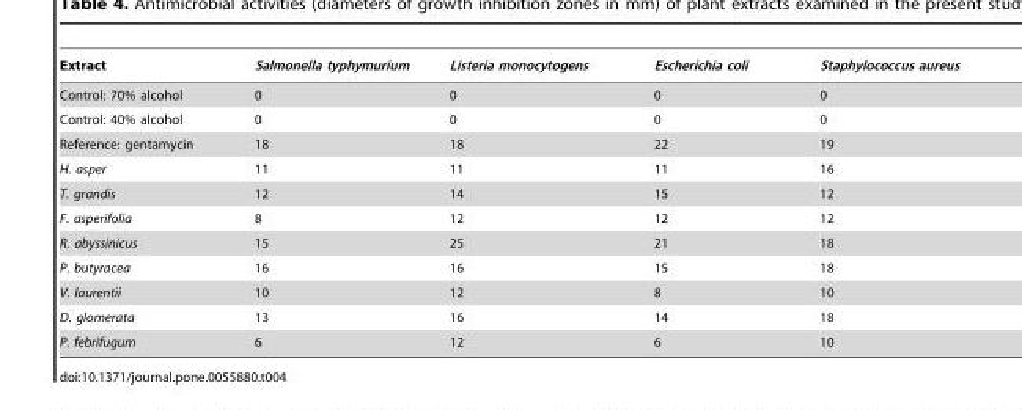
<table><thead><tr><td>Extract</td><td>Salmonella typhymurium</td><td>Listeria monocytogens</td><td>Escherichia coli</td><td>Staphylococcus aureus</td></tr></thead><tbody><tr><td>Control: 70% alcohol</td><td>0</td><td>0</td><td>0</td><td>0</td></tr><tr><td>Control: 40% alcohol</td><td>0</td><td>0</td><td>0</td><td>0</td></tr><tr><td>Reference: gentamycin</td><td>18</td><td>18</td><td>22</td><td>19</td></tr><tr><td>H. asper</td><td>11</td><td>11</td><td>11</td><td>16</td></tr><tr><td>T. grandis</td><td>12</td><td>14</td><td>15</td><td>12</td></tr><tr><td>F. asperifolia</td><td>8</td><td>12</td><td>12</td><td>12</td></tr><tr><td>R. abyssinicus</td><td>15</td><td>25</td><td>21</td><td>18</td></tr><tr><td>P. butyracea</td><td>16</td><td>16</td><td>15</td><td>18</td></tr><tr><td>V. laurentii</td><td>10</td><td>12</td><td>8</td><td>10</td></tr><tr><td>D. glomerata</td><td>13</td><td>16</td><td>14</td><td>18</td></tr><tr><td>P. febrifugum</td><td>6</td><td>12</td><td>6</td><td>10</td></tr></tbody></table>